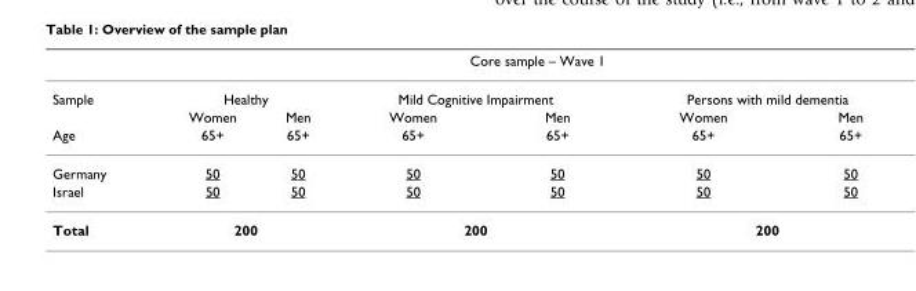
<table><thead><tr><td rowspan="3">Sample</td><td colspan="6">Core sample – Wave 1</td></tr><tr><td colspan="2">Healthy</td><td colspan="2">Mild Cognitive Impairment</td><td colspan="2">Persons with mild dementia</td></tr><tr><td>Women</td><td>Men</td><td>Women</td><td>Men</td><td>Women</td><td>Men</td></tr></thead><tbody><tr><td>Age</td><td>65+</td><td>65+</td><td>65+</td><td>65+</td><td>65+</td><td>65+</td></tr><tr><td>Germany</td><td>50</td><td>50</td><td>50</td><td>50</td><td>50</td><td>50</td></tr><tr><td>Israel</td><td>50</td><td>50</td><td>50</td><td>50</td><td>50</td><td>50</td></tr><tr><td>Total</td><td colspan="2">200</td><td colspan="2">200</td><td colspan="2">200</td></tr></tbody></table>